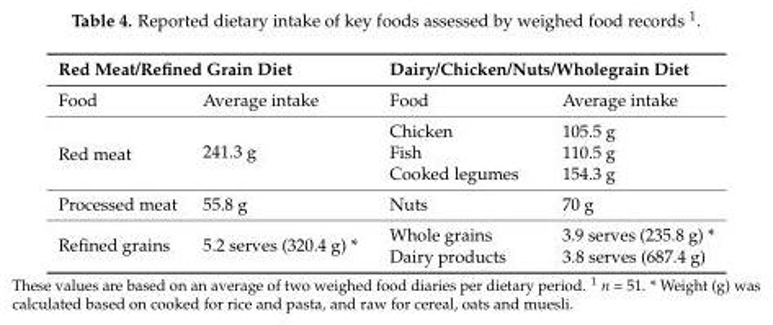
<table><thead><tr><td colspan="2">Red Meat/Refined Grain Diet</td><td colspan="2">Dairy/Chicken/Nuts/Wholegrain Diet</td></tr><tr><td>Food</td><td>Average intake</td><td>Food</td><td>Average intake</td></tr></thead><tbody><tr><td rowspan="3">Red meat</td><td rowspan="3">241.3 g</td><td>Chicken</td><td>105.5 g</td></tr><tr><td>Fish</td><td>110.5 g</td></tr><tr><td>Cooked legumes</td><td>154.3 g</td></tr><tr><td>Processed meat</td><td>55.8 g</td><td>Nuts</td><td>70 g</td></tr><tr><td rowspan="2">Refined grains</td><td rowspan="2">5.2 serves (320.4 g) *</td><td>Whole grains</td><td>3.9 serves (235.8 g) *</td></tr><tr><td>Dairy products</td><td>3.8 serves (687.4 g)</td></tr></tbody></table>